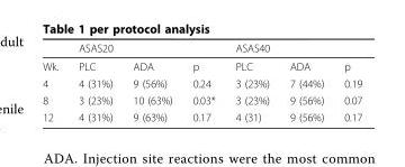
<table><thead><tr><td rowspan="2">Wk.</td><td colspan="3">ASAS20</td><td colspan="3">ASAS40</td></tr><tr><td>PLC</td><td>ADA</td><td>p</td><td>PLC</td><td>ADA</td><td>p</td></tr></thead><tbody><tr><td>4</td><td>4 (31%)</td><td>9 (56%)</td><td>0.24</td><td>3 (23%)</td><td>7 (44%)</td><td>0.19</td></tr><tr><td>8</td><td>3 (23%)</td><td>10 (63%)</td><td>0.03*</td><td>3 (23%)</td><td>9 (56%)</td><td>0.07</td></tr><tr><td>12</td><td>4 (31%)</td><td>9 (63%)</td><td>0.17</td><td>4 (31)</td><td>9 (56%)</td><td>0.17</td></tr></tbody></table>